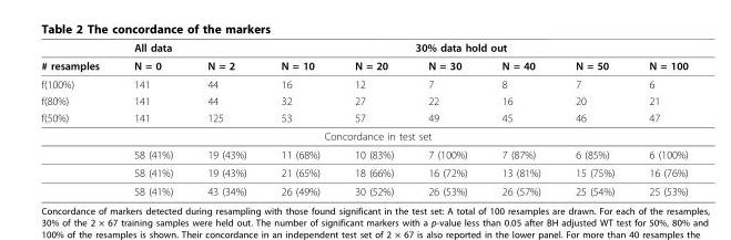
<table><thead><tr><td rowspan="2"># resamples</td><td rowspan="2">All data N = 0</td><td colspan="7">30% data hold out</td></tr><tr><td>N = 2</td><td>N = 10</td><td>N = 20</td><td>N = 30</td><td>N = 40</td><td>N = 50</td><td>N = 100</td></tr></thead><tbody><tr><td>f(100%)</td><td>141</td><td>44</td><td>16</td><td>12</td><td>7</td><td>8</td><td>7</td><td>6</td></tr><tr><td>f(80%)</td><td>141</td><td>44</td><td>32</td><td>27</td><td>22</td><td>16</td><td>20</td><td>21</td></tr><tr><td>f(50%)</td><td>141</td><td>125</td><td>53</td><td>57</td><td>49</td><td>45</td><td>46</td><td>47</td></tr><tr><td colspan="9">Concordance in test set</td></tr><tr><td></td><td>58 (41%)</td><td>19 (43%)</td><td>11 (68%)</td><td>10 (83%)</td><td>7 (100%)</td><td>7 (87%)</td><td>6 (85%)</td><td>6 (100%)</td></tr><tr><td></td><td>58 (41%)</td><td>19 (43%)</td><td>21 (65%)</td><td>18 (66%)</td><td>16 (72%)</td><td>13 (81%)</td><td>15 (75%)</td><td>16 (76%)</td></tr><tr><td></td><td>58 (41%)</td><td>43 (34%)</td><td>26 (49%)</td><td>30 (52%)</td><td>26 (53%)</td><td>26 (57%)</td><td>25 (54%)</td><td>25 (53%)</td></tr></tbody></table>